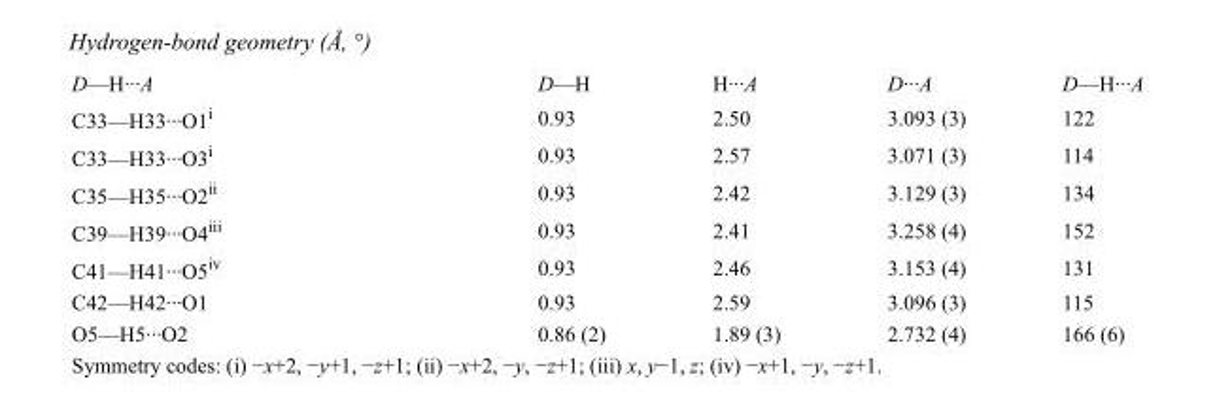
<table><tbody><tr><td>D—H···A</td><td>D—H</td><td>H···A</td><td>D···A</td><td>D—H···A</td></tr><tr><td>C33—H33···O1<sup>i</sup></td><td>0.93</td><td>2.50</td><td>3.093 (3)</td><td>122</td></tr><tr><td>C33—H33···O3<sup>i</sup></td><td>0.93</td><td>2.57</td><td>3.071 (3)</td><td>114</td></tr><tr><td>C35—H35···O2<sup>ii</sup></td><td>0.93</td><td>2.42</td><td>3.129 (3)</td><td>134</td></tr><tr><td>C39—H39···O4<sup>iii</sup></td><td>0.93</td><td>2.41</td><td>3.258 (4)</td><td>152</td></tr><tr><td>C41—H41···O5<sup>iv</sup></td><td>0.93</td><td>2.46</td><td>3.153 (4)</td><td>131</td></tr><tr><td>C42—H42···O1</td><td>0.93</td><td>2.59</td><td>3.096 (3)</td><td>115</td></tr><tr><td>O5—H5···O2</td><td>0.86 (2)</td><td>1.89 (3)</td><td>2.732 (4)</td><td>166 (6)</td></tr></tbody></table>